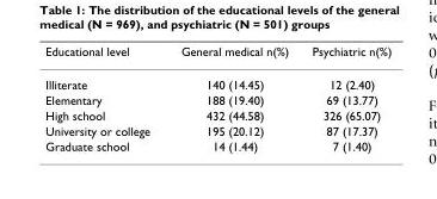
<table><thead><tr><td>Educational level</td><td>General medical n(%)</td><td>Psychiatric n(%)</td></tr></thead><tbody><tr><td>Illiterate</td><td>140 (14.45)</td><td>12 (2.40)</td></tr><tr><td>Elementary</td><td>188 (19.40)</td><td>69 (13.77)</td></tr><tr><td>High school</td><td>432 (44.58)</td><td>326 (65.07)</td></tr><tr><td>University or college</td><td>195 (20.12)</td><td>87 (17.37)</td></tr><tr><td>Graduate school</td><td>14 (1.44)</td><td>7 (1.40)</td></tr></tbody></table>